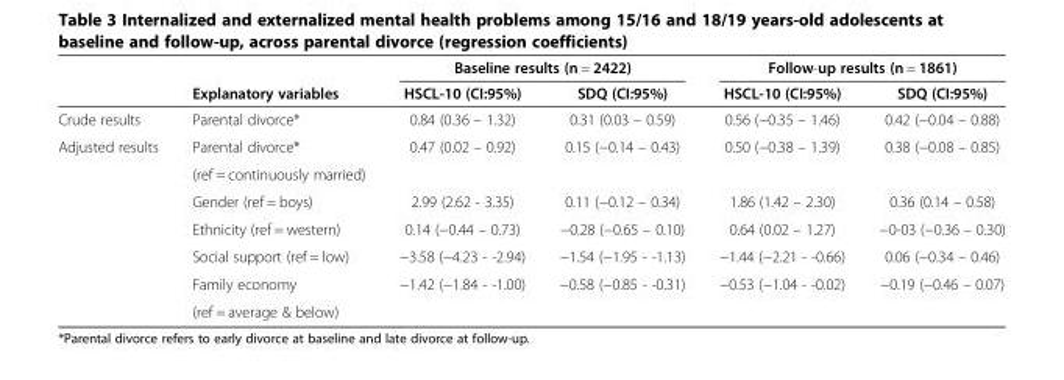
<table><thead><tr><td rowspan="2"></td><td rowspan="2">Explanatory variables</td><td colspan="2">Baseline results (n = 2422)</td><td colspan="2">Follow-up results (n = 1861)</td></tr><tr><td>HSCL-10 (CI:95%)</td><td>SDQ (CI:95%)</td><td>HSCL-10 (CI:95%)</td><td>SDQ (CI:95%)</td></tr></thead><tbody><tr><td>Crude results</td><td>Parental divorce*</td><td>0.84 (0.36 – 1.32)</td><td>0.31 (0.03 – 0.59)</td><td>0.56 (−0.35 – 1.46)</td><td>0.42 (−0.04 – 0.88)</td></tr><tr><td rowspan="7">Adjusted results</td><td>Parental divorce*</td><td>0.47 (0.02 – 0.92)</td><td>0.15 (−0.14 – 0.43)</td><td>0.50 (−0.38 – 1.39)</td><td>0.38 (−0.08 – 0.85)</td></tr><tr><td>(ref = continuously married)</td><td></td><td></td><td></td><td></td></tr><tr><td>Gender (ref = boys)</td><td>2.99 (2.62 - 3.35)</td><td>0.11 (−0.12 – 0.34)</td><td>1.86 (1.42 – 2.30)</td><td>0.36 (0.14 – 0.58)</td></tr><tr><td>Ethnicity (ref = western)</td><td>0.14 (−0.44 – 0.73)</td><td>−0.28 (−0.65 – 0.10)</td><td>0.64 (0.02 – 1.27)</td><td>−0-03 (−0.36 – 0.30)</td></tr><tr><td>Social support (ref = low)</td><td>−3.58 (−4.23 - -2.94)</td><td>−1.54 (−1.95 - -1.13)</td><td>−1.44 (−2.21 - -0.66)</td><td>0.06 (−0.34 – 0.46)</td></tr><tr><td>Family economy</td><td>−1.42 (−1.84 - -1.00)</td><td>−0.58 (−0.85 - -0.31)</td><td>−0.53 (−1.04 - -0.02)</td><td>−0.19 (−0.46 – 0.07)</td></tr><tr><td colspan="2">(ref = average &amp; below)</td><td></td><td></td><td></td></tr></tbody></table>